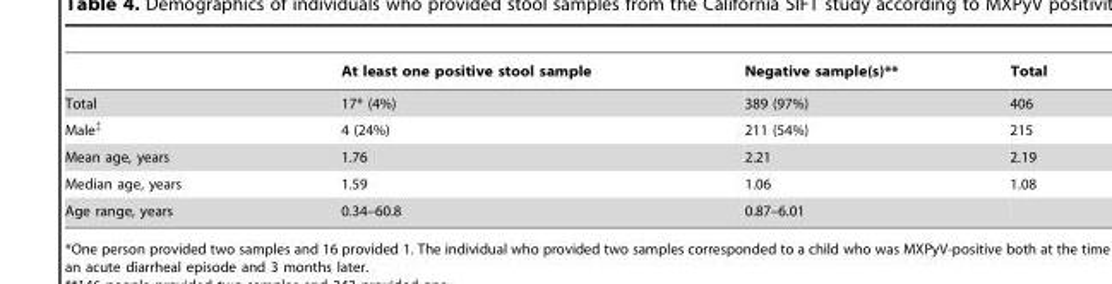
<table><thead><tr><td></td><td>At least one positive stool sample</td><td>Negative sample(s)**</td><td>Total</td></tr></thead><tbody><tr><td>Total</td><td>17* (4%)</td><td>389 (97%)</td><td>406</td></tr><tr><td>Male‡</td><td>4 (24%)</td><td>211 (54%)</td><td>215</td></tr><tr><td>Mean age, years</td><td>1.76</td><td>2.21</td><td>2.19</td></tr><tr><td>Median age, years</td><td>1.59</td><td>1.06</td><td>1.08</td></tr><tr><td>Age range, years</td><td>0.34–60.8</td><td>0.87–6.01</td><td></td></tr></tbody></table>